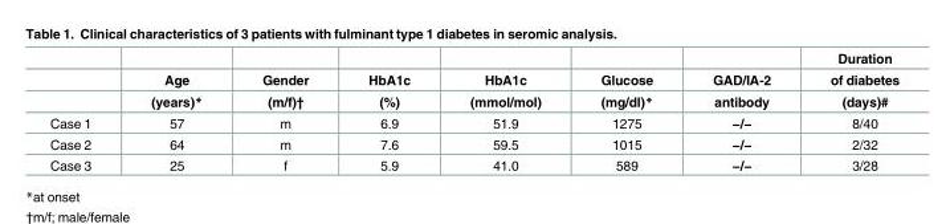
<table><thead><tr><td rowspan="3"></td><td rowspan="3">Age (years)*</td><td rowspan="3">Gender (m/f)†</td><td rowspan="3">HbA1c (%)</td><td rowspan="3">HbA1c (mmol/mol)</td><td rowspan="3">Glucose (mg/dl)*</td><td rowspan="3">GAD/IA-2 antibody</td><td rowspan="3">Duration of diabetes (days)#</td></tr><tr></tr><tr></tr></thead><tbody><tr><td>Case 1</td><td>57</td><td>m</td><td>6.9</td><td>51.9</td><td>1275</td><td>−/−</td><td>8/40</td></tr><tr><td>Case 2</td><td>64</td><td>m</td><td>7.6</td><td>59.5</td><td>1015</td><td>−/−</td><td>2/32</td></tr><tr><td>Case 3</td><td>25</td><td>f</td><td>5.9</td><td>41.0</td><td>589</td><td>−/−</td><td>3/28</td></tr></tbody></table>